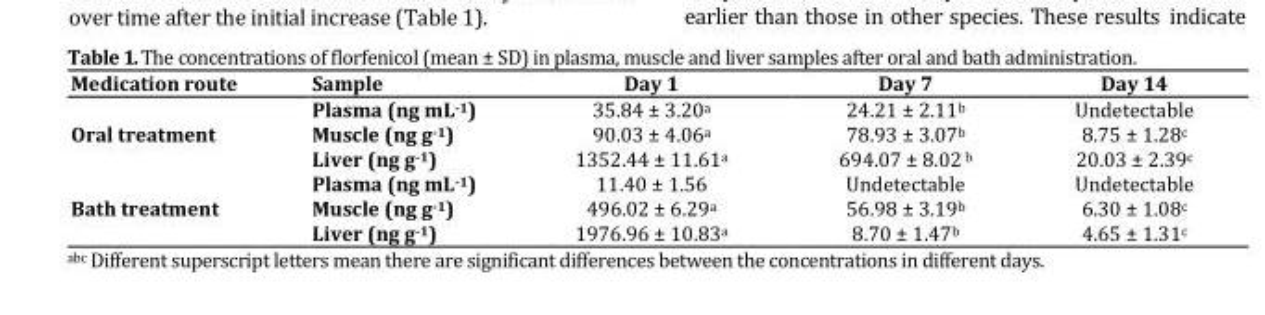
<table><thead><tr><td>Medication route</td><td>Sample</td><td>Day 1</td><td>Day 7</td><td>Day 14</td></tr></thead><tbody><tr><td rowspan="3">Oral treatment</td><td>Plasma (ng mL<sup>-1</sup>)</td><td>35.84 ± 3.20<sup>a</sup></td><td>24.21 ± 2.11<sup>b</sup></td><td>Undetectable</td></tr><tr><td>Muscle (ng g<sup>-1</sup>)</td><td>90.03 ± 4.06<sup>a</sup></td><td>78.93 ± 3.07<sup>b</sup></td><td>8.75 ± 1.28<sup>c</sup></td></tr><tr><td>Liver (ng g<sup>-1</sup>)</td><td>1352.44 ± 11.61<sup>a</sup></td><td>694.07 ± 8.02 <sup>b</sup></td><td>20.03 ± 2.39<sup>c</sup></td></tr><tr><td rowspan="3">Bath treatment</td><td>Plasma (ng mL<sup>-1</sup>)</td><td>11.40 ± 1.56</td><td>Undetectable</td><td>Undetectable</td></tr><tr><td>Muscle (ng g<sup>-1</sup>)</td><td>496.02 ± 6.29<sup>a</sup></td><td>56.98 ± 3.19<sup>b</sup></td><td>6.30 ± 1.08<sup>c</sup></td></tr><tr><td>Liver (ng g<sup>-1</sup>)</td><td>1976.96 ± 10.83<sup>a</sup></td><td>8.70 ± 1.47<sup>b</sup></td><td>4.65 ± 1.31<sup>c</sup></td></tr></tbody></table>